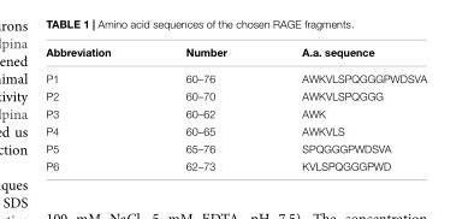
<table><thead><tr><td>Abbreviation</td><td>Number</td><td>A.a. sequence</td></tr></thead><tbody><tr><td>P1</td><td>60–76</td><td>AWKVLSPQGGGPWDSVA</td></tr><tr><td>P2</td><td>60–70</td><td>AWKVLSPQGGG</td></tr><tr><td>P3</td><td>60–62</td><td>AWK</td></tr><tr><td>P4</td><td>60–65</td><td>AWKVLS</td></tr><tr><td>P5</td><td>65–76</td><td>SPQGGGPWDSVA</td></tr><tr><td>P6</td><td>62–73</td><td>KVLSPQGGGPWD</td></tr></tbody></table>